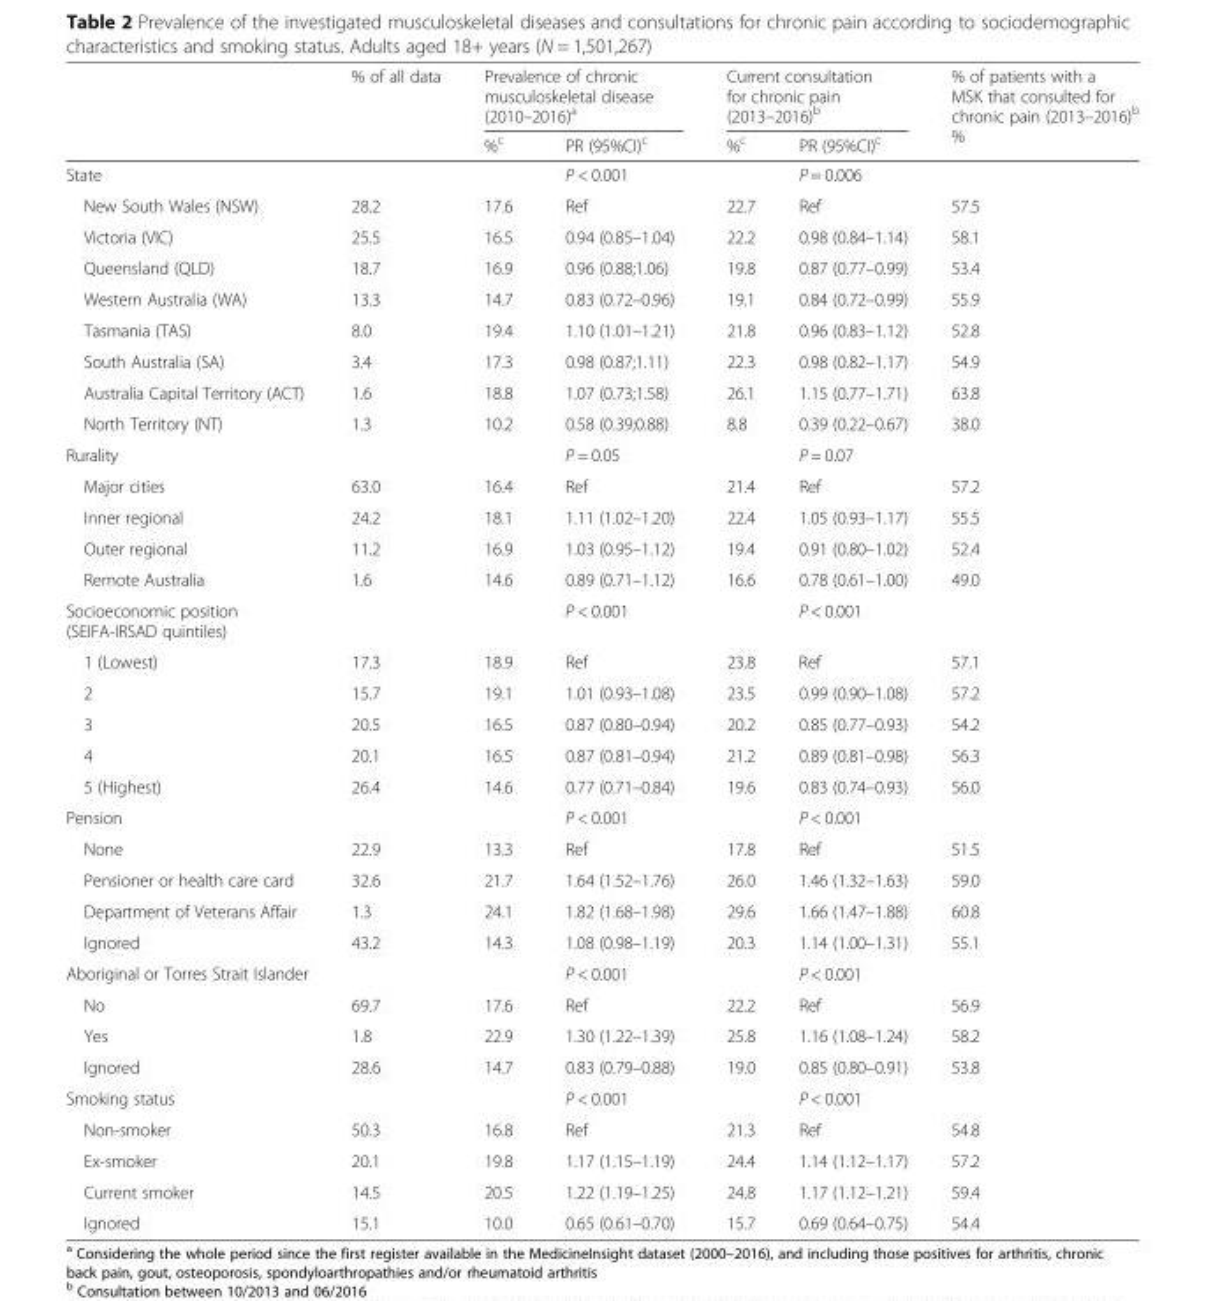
<table><thead><tr><td rowspan="2"></td><td rowspan="2">% of all data</td><td colspan="2">Prevalence of chronic musculoskeletal disease (2010–2016)<sup>a</sup></td><td colspan="2">Current consultation for chronic pain (2013–2016)<sup>b</sup></td><td rowspan="2">% of patients with a MSK that consulted for chronic pain (2013–2016)<sup>b</sup> %</td></tr><tr><td>%<sup>c</sup></td><td>PR (95%CI)<sup>c</sup></td><td>%<sup>c</sup></td><td>PR (95%CI)<sup>c</sup></td></tr></thead><tbody><tr><td>State</td><td></td><td></td><td>P &lt; 0.001</td><td></td><td>P = 0.006</td><td></td></tr><tr><td>New South Wales (NSW)</td><td>28.2</td><td>17.6</td><td>Ref</td><td>22.7</td><td>Ref</td><td>57.5</td></tr><tr><td>Victoria (VIC)</td><td>25.5</td><td>16.5</td><td>0.94 (0.85–1.04)</td><td>22.2</td><td>0.98 (0.84–1.14)</td><td>58.1</td></tr><tr><td>Queensland (QLD)</td><td>18.7</td><td>16.9</td><td>0.96 (0.88;1.06)</td><td>19.8</td><td>0.87 (0.77–0.99)</td><td>53.4</td></tr><tr><td>Western Australia (WA)</td><td>13.3</td><td>14.7</td><td>0.83 (0.72–0.96)</td><td>19.1</td><td>0.84 (0.72–0.99)</td><td>55.9</td></tr><tr><td>Tasmania (TAS)</td><td>8.0</td><td>19.4</td><td>1.10 (1.01–1.21)</td><td>21.8</td><td>0.96 (0.83–1.12)</td><td>52.8</td></tr><tr><td>South Australia (SA)</td><td>3.4</td><td>17.3</td><td>0.98 (0.87;1.11)</td><td>22.3</td><td>0.98 (0.82–1.17)</td><td>54.9</td></tr><tr><td>Australia Capital Territory (ACT)</td><td>1.6</td><td>18.8</td><td>1.07 (0.73;1.58)</td><td>26.1</td><td>1.15 (0.77–1.71)</td><td>63.8</td></tr><tr><td>North Territory (NT)</td><td>1.3</td><td>10.2</td><td>0.58 (0.39;0.88)</td><td>8.8</td><td>0.39 (0.22–0.67)</td><td>38.0</td></tr><tr><td>Rurality</td><td></td><td></td><td>P = 0.05</td><td></td><td>P = 0.07</td><td></td></tr><tr><td>Major cities</td><td>63.0</td><td>16.4</td><td>Ref</td><td>21.4</td><td>Ref</td><td>57.2</td></tr><tr><td>Inner regional</td><td>24.2</td><td>18.1</td><td>1.11 (1.02–1.20)</td><td>22.4</td><td>1.05 (0.93–1.17)</td><td>55.5</td></tr><tr><td>Outer regional</td><td>11.2</td><td>16.9</td><td>1.03 (0.95–1.12)</td><td>19.4</td><td>0.91 (0.80–1.02)</td><td>52.4</td></tr><tr><td>Remote Australia</td><td>1.6</td><td>14.6</td><td>0.89 (0.71–1.12)</td><td>16.6</td><td>0.78 (0.61–1.00)</td><td>49.0</td></tr><tr><td>Socioeconomic position (SEIFA-IRSAD quintiles)</td><td></td><td></td><td>P &lt; 0.001</td><td></td><td>P &lt; 0.001</td><td></td></tr><tr><td>1 (Lowest)</td><td>17.3</td><td>18.9</td><td>Ref</td><td>23.8</td><td>Ref</td><td>57.1</td></tr><tr><td>2</td><td>15.7</td><td>19.1</td><td>1.01 (0.93–1.08)</td><td>23.5</td><td>0.99 (0.90–1.08)</td><td>57.2</td></tr><tr><td>3</td><td>20.5</td><td>16.5</td><td>0.87 (0.80–0.94)</td><td>20.2</td><td>0.85 (0.77–0.93)</td><td>54.2</td></tr><tr><td>4</td><td>20.1</td><td>16.5</td><td>0.87 (0.81–0.94)</td><td>21.2</td><td>0.89 (0.81–0.98)</td><td>56.3</td></tr><tr><td>5 (Highest)</td><td>26.4</td><td>14.6</td><td>0.77 (0.71–0.84)</td><td>19.6</td><td>0.83 (0.74–0.93)</td><td>56.0</td></tr><tr><td>Pension</td><td></td><td></td><td>P &lt; 0.001</td><td></td><td>P &lt; 0.001</td><td></td></tr><tr><td>None</td><td>22.9</td><td>13.3</td><td>Ref</td><td>17.8</td><td>Ref</td><td>51.5</td></tr><tr><td>Pensioner or health care card</td><td>32.6</td><td>21.7</td><td>1.64 (1.52–1.76)</td><td>26.0</td><td>1.46 (1.32–1.63)</td><td>59.0</td></tr><tr><td>Department of Veterans Affair</td><td>1.3</td><td>24.1</td><td>1.82 (1.68–1.98)</td><td>29.6</td><td>1.66 (1.47–1.88)</td><td>60.8</td></tr><tr><td>Ignored</td><td>43.2</td><td>14.3</td><td>1.08 (0.98–1.19)</td><td>20.3</td><td>1.14 (1.00–1.31)</td><td>55.1</td></tr><tr><td>Aboriginal or Torres Strait Islander</td><td></td><td></td><td>P &lt; 0.001</td><td></td><td>P &lt; 0.001</td><td></td></tr><tr><td>No</td><td>69.7</td><td>17.6</td><td>Ref</td><td>22.2</td><td>Ref</td><td>56.9</td></tr><tr><td>Yes</td><td>1.8</td><td>22.9</td><td>1.30 (1.22–1.39)</td><td>25.8</td><td>1.16 (1.08–1.24)</td><td>58.2</td></tr><tr><td>Ignored</td><td>28.6</td><td>14.7</td><td>0.83 (0.79–0.88)</td><td>19.0</td><td>0.85 (0.80–0.91)</td><td>53.8</td></tr><tr><td>Smoking status</td><td></td><td></td><td>P &lt; 0.001</td><td></td><td>P &lt; 0.001</td><td></td></tr><tr><td>Non-smoker</td><td>50.3</td><td>16.8</td><td>Ref</td><td>21.3</td><td>Ref</td><td>54.8</td></tr><tr><td>Ex-smoker</td><td>20.1</td><td>19.8</td><td>1.17 (1.15–1.19)</td><td>24.4</td><td>1.14 (1.12–1.17)</td><td>57.2</td></tr><tr><td>Current smoker</td><td>14.5</td><td>20.5</td><td>1.22 (1.19–1.25)</td><td>24.8</td><td>1.17 (1.12–1.21)</td><td>59.4</td></tr><tr><td>Ignored</td><td>15.1</td><td>10.0</td><td>0.65 (0.61–0.70)</td><td>15.7</td><td>0.69 (0.64–0.75)</td><td>54.4</td></tr></tbody></table>